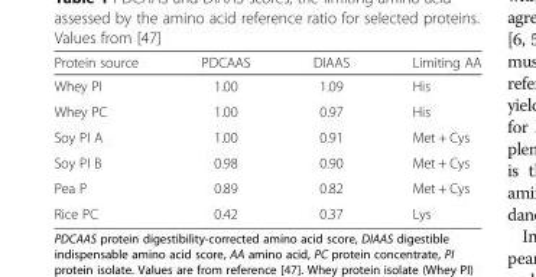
<table><thead><tr><td>Protein source</td><td>PDCAAS</td><td>DIAAS</td><td>Limiting AA</td></tr></thead><tbody><tr><td>Whey PI</td><td>1.00</td><td>1.09</td><td>His</td></tr><tr><td>Whey PC</td><td>1.00</td><td>0.97</td><td>His</td></tr><tr><td>Soy PI A</td><td>1.00</td><td>0.91</td><td>Met + Cys</td></tr><tr><td>Soy PI B</td><td>0.98</td><td>0.90</td><td>Met + Cys</td></tr><tr><td>Pea P</td><td>0.89</td><td>0.82</td><td>Met + Cys</td></tr><tr><td>Rice PC</td><td>0.42</td><td>0.37</td><td>Lys</td></tr></tbody></table>